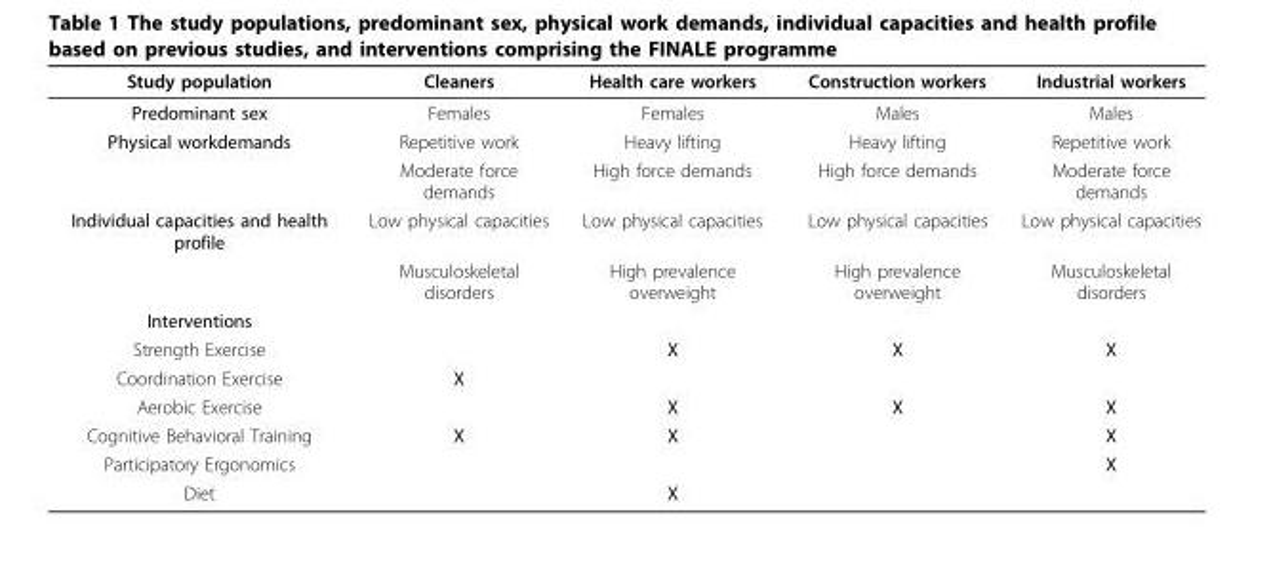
<table><thead><tr><td>Study population</td><td>Cleaners</td><td>Health care workers</td><td>Construction workers</td><td>Industrial workers</td></tr></thead><tbody><tr><td>Predominant sex</td><td>Females</td><td>Females</td><td>Males</td><td>Males</td></tr><tr><td rowspan="2">Physical workdemands</td><td>Repetitive work</td><td>Heavy lifting</td><td>Heavy lifting</td><td>Repetitive work</td></tr><tr><td>Moderate force demands</td><td>High force demands</td><td>High force demands</td><td>Moderate force demands</td></tr><tr><td rowspan="2">Individual capacities and health profile</td><td>Low physical capacities</td><td>Low physical capacities</td><td>Low physical capacities</td><td>Low physical capacities</td></tr><tr><td>Musculoskeletal disorders</td><td>High prevalence overweight</td><td>High prevalence overweight</td><td>Musculoskeletal disorders</td></tr><tr><td colspan="5">Interventions</td></tr><tr><td>Strength Exercise</td><td></td><td>X</td><td>X</td><td>X</td></tr><tr><td>Coordination Exercise</td><td>X</td><td></td><td></td><td></td></tr><tr><td>Aerobic Exercise</td><td></td><td>X</td><td>X</td><td>X</td></tr><tr><td>Cognitive Behavioral Training</td><td>X</td><td>X</td><td></td><td>X</td></tr><tr><td>Participatory Ergonomics</td><td></td><td></td><td></td><td>X</td></tr><tr><td>Diet</td><td></td><td>X</td><td></td><td></td></tr></tbody></table>